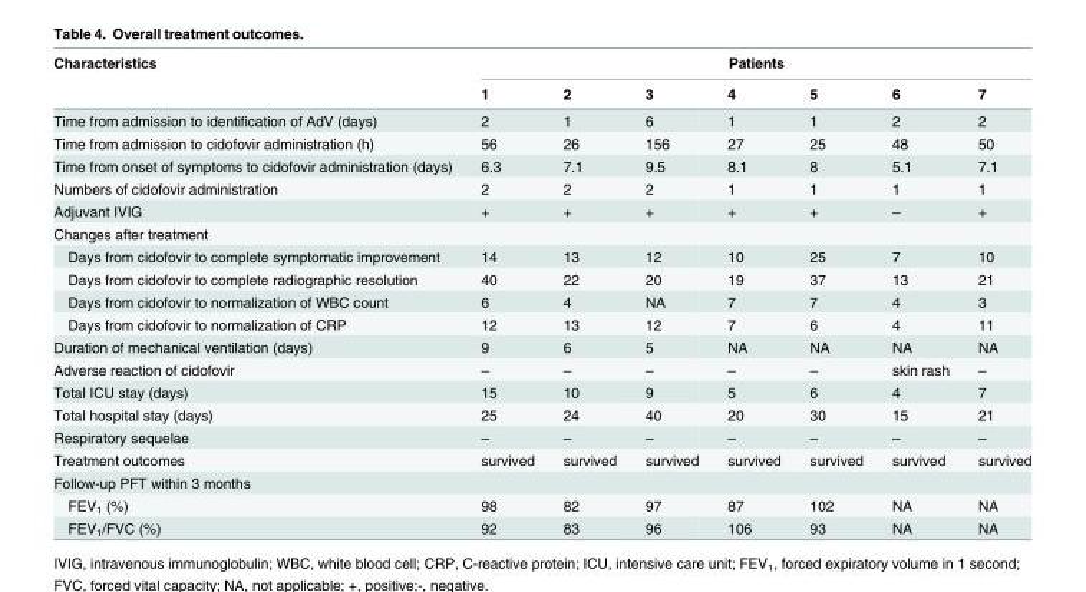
<table><thead><tr><td rowspan="2">Characteristics</td><td colspan="7">Patients</td></tr><tr><td>1</td><td>2</td><td>3</td><td>4</td><td>5</td><td>6</td><td>7</td></tr></thead><tbody><tr><td>Time from admission to identification of AdV (days)</td><td>2</td><td>1</td><td>6</td><td>1</td><td>1</td><td>2</td><td>2</td></tr><tr><td>Time from admission to cidofovir administration (h)</td><td>56</td><td>26</td><td>156</td><td>27</td><td>25</td><td>48</td><td>50</td></tr><tr><td>Time from onset of symptoms to cidofovir administration (days)</td><td>6.3</td><td>7.1</td><td>9.5</td><td>8.1</td><td>8</td><td>5.1</td><td>7.1</td></tr><tr><td>Numbers of cidofovir administration</td><td>2</td><td>2</td><td>2</td><td>1</td><td>1</td><td>1</td><td>1</td></tr><tr><td>Adjuvant IVIG</td><td>+</td><td>+</td><td>+</td><td>+</td><td>+</td><td>–</td><td>+</td></tr><tr><td colspan="8">Changes after treatment</td></tr><tr><td>Days from cidofovir to complete symptomatic improvement</td><td>14</td><td>13</td><td>12</td><td>10</td><td>25</td><td>7</td><td>10</td></tr><tr><td>Days from cidofovir to complete radiographic resolution</td><td>40</td><td>22</td><td>20</td><td>19</td><td>37</td><td>13</td><td>21</td></tr><tr><td>Days from cidofovir to normalization of WBC count</td><td>6</td><td>4</td><td>NA</td><td>7</td><td>7</td><td>4</td><td>3</td></tr><tr><td>Days from cidofovir to normalization of CRP</td><td>12</td><td>13</td><td>12</td><td>7</td><td>6</td><td>4</td><td>11</td></tr><tr><td>Duration of mechanical ventilation (days)</td><td>9</td><td>6</td><td>5</td><td>NA</td><td>NA</td><td>NA</td><td>NA</td></tr><tr><td>Adverse reaction of cidofovir</td><td>–</td><td>–</td><td>–</td><td>–</td><td>–</td><td>skin rash</td><td>–</td></tr><tr><td>Total ICU stay (days)</td><td>15</td><td>10</td><td>9</td><td>5</td><td>6</td><td>4</td><td>7</td></tr><tr><td>Total hospital stay (days)</td><td>25</td><td>24</td><td>40</td><td>20</td><td>30</td><td>15</td><td>21</td></tr><tr><td>Respiratory sequelae</td><td>–</td><td>–</td><td>–</td><td>–</td><td>–</td><td>–</td><td>–</td></tr><tr><td>Treatment outcomes</td><td>survived</td><td>survived</td><td>survived</td><td>survived</td><td>survived</td><td>survived</td><td>survived</td></tr><tr><td colspan="8">Follow-up PFT within 3 months</td></tr><tr><td>FEV<sub>1</sub> (%)</td><td>98</td><td>82</td><td>97</td><td>87</td><td>102</td><td>NA</td><td>NA</td></tr><tr><td>FEV<sub>1</sub>/FVC (%)</td><td>92</td><td>83</td><td>96</td><td>106</td><td>93</td><td>NA</td><td>NA</td></tr></tbody></table>